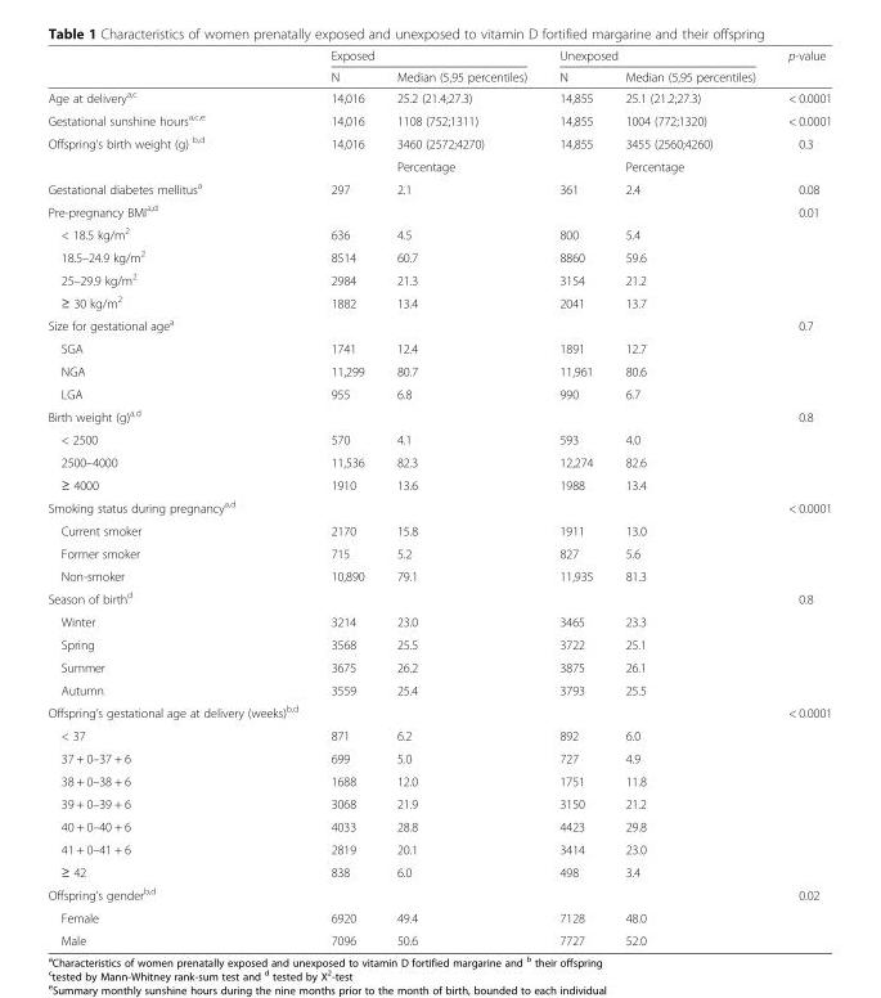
<table><thead><tr><td rowspan="2"></td><td colspan="2">Exposed</td><td colspan="2">Unexposed</td><td rowspan="2">p-value</td></tr><tr><td>N</td><td>Median (5,95 percentiles)</td><td>N</td><td>Median (5,95 percentiles)</td></tr></thead><tbody><tr><td>Age at delivery<sup>a,c</sup></td><td>14,016</td><td>25.2 (21.4;27.3)</td><td>14,855</td><td>25.1 (21.2;27.3)</td><td>&lt; 0.0001</td></tr><tr><td>Gestational sunshine hours<sup>a,c,e</sup></td><td>14,016</td><td>1108 (752;1311)</td><td>14,855</td><td>1004 (772;1320)</td><td>&lt; 0.0001</td></tr><tr><td rowspan="2">Offspring’s birth weight (g) <sup>b,d</sup></td><td>14,016</td><td>3460 (2572;4270)</td><td>14,855</td><td>3455 (2560;4260)</td><td>0.3</td></tr><tr><td></td><td>Percentage</td><td></td><td>Percentage</td><td></td></tr><tr><td>Gestational diabetes mellitus<sup>a</sup></td><td>297</td><td>2.1</td><td>361</td><td>2.4</td><td>0.08</td></tr><tr><td>Pre-pregnancy BMI<sup>a,d</sup></td><td></td><td></td><td></td><td></td><td>0.01</td></tr><tr><td>&lt; 18.5 kg/m<sup>2</sup></td><td>636</td><td>4.5</td><td>800</td><td>5.4</td><td></td></tr><tr><td>18.5–24.9 kg/m<sup>2</sup></td><td>8514</td><td>60.7</td><td>8860</td><td>59.6</td><td></td></tr><tr><td>25–29.9 kg/m<sup>2</sup></td><td>2984</td><td>21.3</td><td>3154</td><td>21.2</td><td></td></tr><tr><td>≥ 30 kg/m<sup>2</sup></td><td>1882</td><td>13.4</td><td>2041</td><td>13.7</td><td></td></tr><tr><td>Size for gestational age<sup>a</sup></td><td></td><td></td><td></td><td></td><td>0.7</td></tr><tr><td>SGA</td><td>1741</td><td>12.4</td><td>1891</td><td>12.7</td><td></td></tr><tr><td>NGA</td><td>11,299</td><td>80.7</td><td>11,961</td><td>80.6</td><td></td></tr><tr><td>LGA</td><td>955</td><td>6.8</td><td>990</td><td>6.7</td><td></td></tr><tr><td>Birth weight (g)<sup>a,d</sup></td><td></td><td></td><td></td><td></td><td>0.8</td></tr><tr><td>&lt; 2500</td><td>570</td><td>4.1</td><td>593</td><td>4.0</td><td></td></tr><tr><td>2500–4000</td><td>11,536</td><td>82.3</td><td>12,274</td><td>82.6</td><td></td></tr><tr><td>≥ 4000</td><td>1910</td><td>13.6</td><td>1988</td><td>13.4</td><td></td></tr><tr><td>Smoking status during pregnancy<sup>a,d</sup></td><td></td><td></td><td></td><td></td><td>&lt; 0.0001</td></tr><tr><td>Current smoker</td><td>2170</td><td>15.8</td><td>1911</td><td>13.0</td><td></td></tr><tr><td>Former smoker</td><td>715</td><td>5.2</td><td>827</td><td>5.6</td><td></td></tr><tr><td>Non-smoker</td><td>10,890</td><td>79.1</td><td>11,935</td><td>81.3</td><td></td></tr><tr><td>Season of birth<sup>d</sup></td><td></td><td></td><td></td><td></td><td>0.8</td></tr><tr><td>Winter</td><td>3214</td><td>23.0</td><td>3465</td><td>23.3</td><td></td></tr><tr><td>Spring</td><td>3568</td><td>25.5</td><td>3722</td><td>25.1</td><td></td></tr><tr><td>Summer</td><td>3675</td><td>26.2</td><td>3875</td><td>26.1</td><td></td></tr><tr><td>Autumn</td><td>3559</td><td>25.4</td><td>3793</td><td>25.5</td><td></td></tr><tr><td>Offspring’s gestational age at delivery (weeks)<sup>b,d</sup></td><td></td><td></td><td></td><td></td><td>&lt; 0.0001</td></tr><tr><td>&lt; 37</td><td>871</td><td>6.2</td><td>892</td><td>6.0</td><td></td></tr><tr><td>37 + 0–37 + 6</td><td>699</td><td>5.0</td><td>727</td><td>4.9</td><td></td></tr><tr><td>38 + 0–38 + 6</td><td>1688</td><td>12.0</td><td>1751</td><td>11.8</td><td></td></tr><tr><td>39 + 0–39 + 6</td><td>3068</td><td>21.9</td><td>3150</td><td>21.2</td><td></td></tr><tr><td>40 + 0–40 + 6</td><td>4033</td><td>28.8</td><td>4423</td><td>29.8</td><td></td></tr><tr><td>41 + 0–41 + 6</td><td>2819</td><td>20.1</td><td>3414</td><td>23.0</td><td></td></tr><tr><td>≥ 42</td><td>838</td><td>6.0</td><td>498</td><td>3.4</td><td></td></tr><tr><td>Offspring’s gender<sup>b,d</sup></td><td></td><td></td><td></td><td></td><td>0.02</td></tr><tr><td>Female</td><td>6920</td><td>49.4</td><td>7128</td><td>48.0</td><td></td></tr><tr><td>Male</td><td>7096</td><td>50.6</td><td>7727</td><td>52.0</td><td></td></tr></tbody></table>